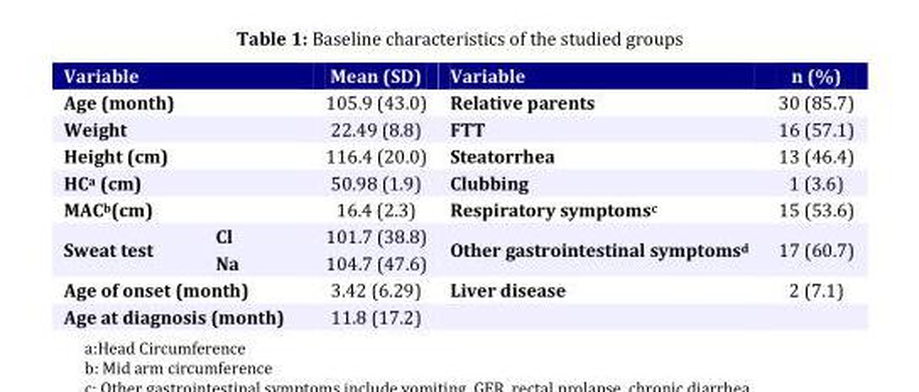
<table><thead><tr><td colspan="2">Variable</td><td>Mean (SD)</td><td>Variable</td><td>n (%)</td></tr></thead><tbody><tr><td colspan="2">Age (month)</td><td>105.9 (43.0)</td><td>Relative parents</td><td>30 (85.7)</td></tr><tr><td colspan="2">Weight</td><td>22.49 (8.8)</td><td>FTT</td><td>16 (57.1)</td></tr><tr><td colspan="2">Height (cm)</td><td>116.4 (20.0)</td><td>Steatorrhea</td><td>13 (46.4)</td></tr><tr><td colspan="2">HCa (cm)</td><td>50.98 (1.9)</td><td>Clubbing</td><td>1 (3.6)</td></tr><tr><td colspan="2">MACb(cm)</td><td>16.4 (2.3)</td><td>Respiratory symptomsc</td><td>15 (53.6)</td></tr><tr><td rowspan="2">Sweat test</td><td>Cl</td><td>101.7 (38.8)</td><td rowspan="2">Other gastrointestinal symptomsd</td><td rowspan="2">17 (60.7)</td></tr><tr><td>Na</td><td>104.7 (47.6)</td></tr><tr><td colspan="2">Age of onset (month)</td><td>3.42 (6.29)</td><td>Liver disease</td><td>2 (7.1)</td></tr><tr><td colspan="2">Age at diagnosis (month)</td><td>11.8 (17.2)</td><td></td><td></td></tr></tbody></table>